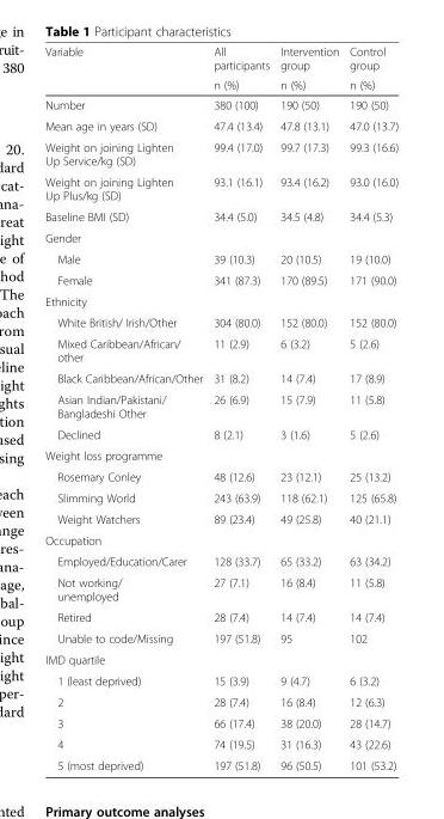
<table><thead><tr><td rowspan="2">Variable</td><td rowspan="2">All participants n (%)</td><td rowspan="2">Intervention group n (%)</td><td rowspan="2">Control group n (%)</td></tr><tr></tr></thead><tbody><tr><td>Number</td><td>380 (100)</td><td>190 (50)</td><td>190 (50)</td></tr><tr><td>Mean age in years (SD)</td><td>47.4 (13.4)</td><td>47.8 (13.1)</td><td>47.0 (13.7)</td></tr><tr><td>Weight on joining Lighten Up Service/kg (SD)</td><td>99.4 (17.0)</td><td>99.7 (17.3)</td><td>99.3 (16.6)</td></tr><tr><td>Weight on joining Lighten Up Plus/kg (SD)</td><td>93.1 (16.1)</td><td>93.4 (16.2)</td><td>93.0 (16.0)</td></tr><tr><td>Baseline BMI (SD)</td><td>34.4 (5.0)</td><td>34.5 (4.8)</td><td>34.4 (5.3)</td></tr><tr><td colspan="4">Gender</td></tr><tr><td>Male</td><td>39 (10.3)</td><td>20 (10.5)</td><td>19 (10.0)</td></tr><tr><td>Female</td><td>341 (87.3)</td><td>170 (89.5)</td><td>171 (90.0)</td></tr><tr><td colspan="4">Ethnicity</td></tr><tr><td>White British/ Irish/Other</td><td>304 (80.0)</td><td>152 (80.0)</td><td>152 (80.0)</td></tr><tr><td>Mixed Caribbean/African/ other</td><td>11 (2.9)</td><td>6 (3.2)</td><td>5 (2.6)</td></tr><tr><td>Black Caribbean/African/Other</td><td>31 (8.2)</td><td>14 (7.4)</td><td>17 (8.9)</td></tr><tr><td>Asian Indian/Pakistani/ Bangladeshi Other</td><td>26 (6.9)</td><td>15 (7.9)</td><td>11 (5.8)</td></tr><tr><td>Declined</td><td>8 (2.1)</td><td>3 (1.6)</td><td>5 (2.6)</td></tr><tr><td colspan="4">Weight loss programme</td></tr><tr><td>Rosemary Conley</td><td>48 (12.6)</td><td>23 (12.1)</td><td>25 (13.2)</td></tr><tr><td>Slimming World</td><td>243 (63.9)</td><td>118 (62.1)</td><td>125 (65.8)</td></tr><tr><td>Weight Watchers</td><td>89 (23.4)</td><td>49 (25.8)</td><td>40 (21.1)</td></tr><tr><td colspan="4">Occupation</td></tr><tr><td>Employed/Education/Carer</td><td>128 (33.7)</td><td>65 (33.2)</td><td>63 (34.2)</td></tr><tr><td>Not working/ unemployed</td><td>27 (7.1)</td><td>16 (8.4)</td><td>11 (5.8)</td></tr><tr><td>Retired</td><td>28 (7.4)</td><td>14 (7.4)</td><td>14 (7.4)</td></tr><tr><td>Unable to code/Missing</td><td>197 (51.8)</td><td>95</td><td>102</td></tr><tr><td colspan="4">IMD quartile</td></tr><tr><td>1 (least deprived)</td><td>15 (3.9)</td><td>9 (4.7)</td><td>6 (3.2)</td></tr><tr><td>2</td><td>28 (7.4)</td><td>16 (8.4)</td><td>12 (6.3)</td></tr><tr><td>3</td><td>66 (17.4)</td><td>38 (20.0)</td><td>28 (14.7)</td></tr><tr><td>4</td><td>74 (19.5)</td><td>31 (16.3)</td><td>43 (22.6)</td></tr><tr><td>5 (most deprived)</td><td>197 (51.8)</td><td>96 (50.5)</td><td>101 (53.2)</td></tr></tbody></table>